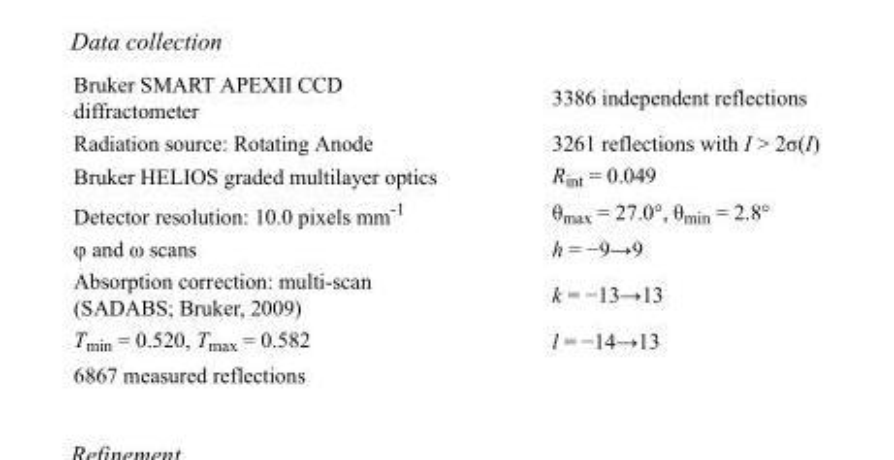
<table><tbody><tr><td>Bruker SMART APEXII CCD diffractometer</td><td>3386 independent reflections</td></tr><tr><td>Radiation source: Rotating Anode</td><td>3261 reflections with I &gt; 2σ(I)</td></tr><tr><td>Bruker HELIOS graded multilayer optics</td><td>R<sub>int</sub> = 0.049</td></tr><tr><td>Detector resolution: 10.0 pixels mm<sup>-1</sup></td><td>θ<sub>max</sub> = 27.0°, θ<sub>min</sub> = 2.8°</td></tr><tr><td>φ and ω scans</td><td>h = −9→9</td></tr><tr><td>Absorption correction: multi-scan (SADABS; Bruker, 2009)</td><td>k = −13→13</td></tr><tr><td>T<sub>min</sub> = 0.520, T<sub>max</sub> = 0.582</td><td>l = −14→13</td></tr><tr><td>6867 measured reflections</td><td></td></tr></tbody></table>